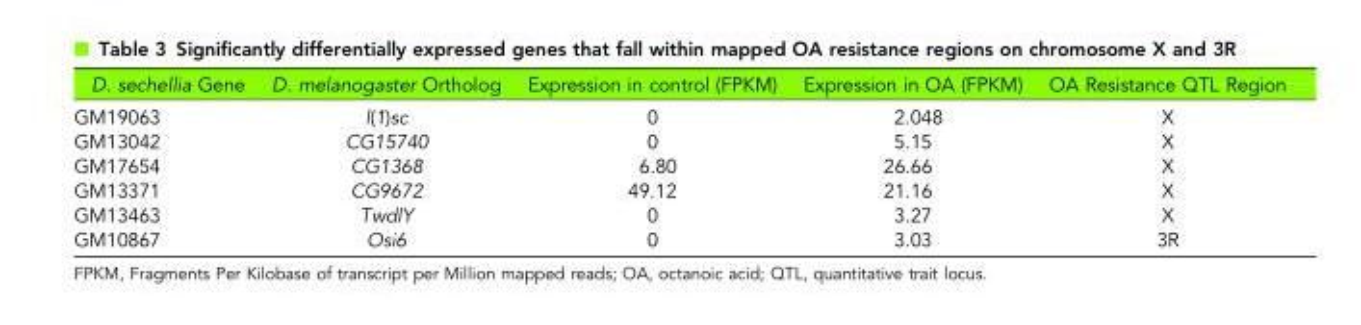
<table><thead><tr><td>D. sechellia Gene</td><td>D. melanogaster Ortholog</td><td>Expression in control (FPKM)</td><td>Expression in OA (FPKM)</td><td>OA Resistance QTL Region</td></tr></thead><tbody><tr><td>GM19063</td><td>l(1)sc</td><td>0</td><td>2.048</td><td>X</td></tr><tr><td>GM13042</td><td>CG15740</td><td>0</td><td>5.15</td><td>X</td></tr><tr><td>GM17654</td><td>CG1368</td><td>6.80</td><td>26.66</td><td>X</td></tr><tr><td>GM13371</td><td>CG9672</td><td>49.12</td><td>21.16</td><td>X</td></tr><tr><td>GM13463</td><td>TwdlY</td><td>0</td><td>3.27</td><td>X</td></tr><tr><td>GM10867</td><td>Osi6</td><td>0</td><td>3.03</td><td>3R</td></tr></tbody></table>